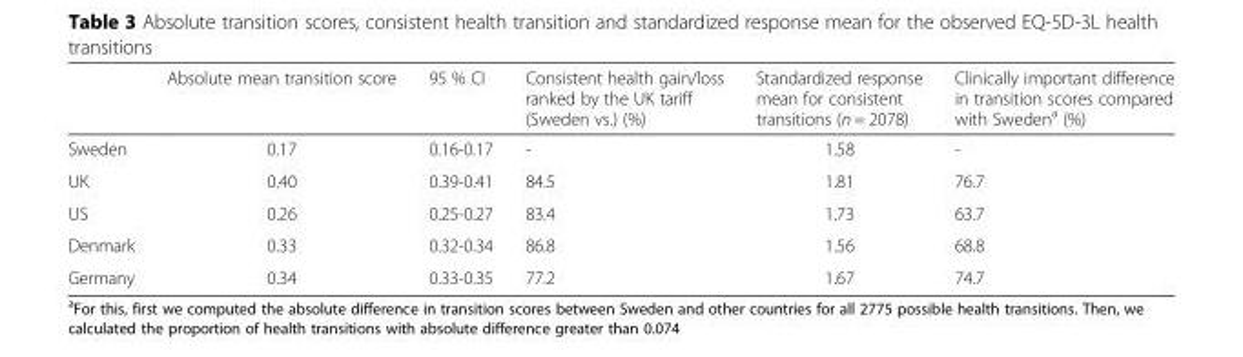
<table><thead><tr><td></td><td>Absolute mean transition score</td><td>95 % CI</td><td>Consistent health gain/loss ranked by the UK tariff (Sweden vs.) (%)</td><td>Standardized response mean for consistent transitions (n = 2078)</td><td>Clinically important difference in transition scores compared with Sweden<sup>a</sup> (%)</td></tr></thead><tbody><tr><td>Sweden</td><td>0.17</td><td>0.16-0.17</td><td>-</td><td>1.58</td><td>-</td></tr><tr><td>UK</td><td>0.40</td><td>0.39-0.41</td><td>84.5</td><td>1.81</td><td>76.7</td></tr><tr><td>US</td><td>0.26</td><td>0.25-0.27</td><td>83.4</td><td>1.73</td><td>63.7</td></tr><tr><td>Denmark</td><td>0.33</td><td>0.32-0.34</td><td>86.8</td><td>1.56</td><td>68.8</td></tr><tr><td>Germany</td><td>0.34</td><td>0.33-0.35</td><td>77.2</td><td>1.67</td><td>74.7</td></tr></tbody></table>